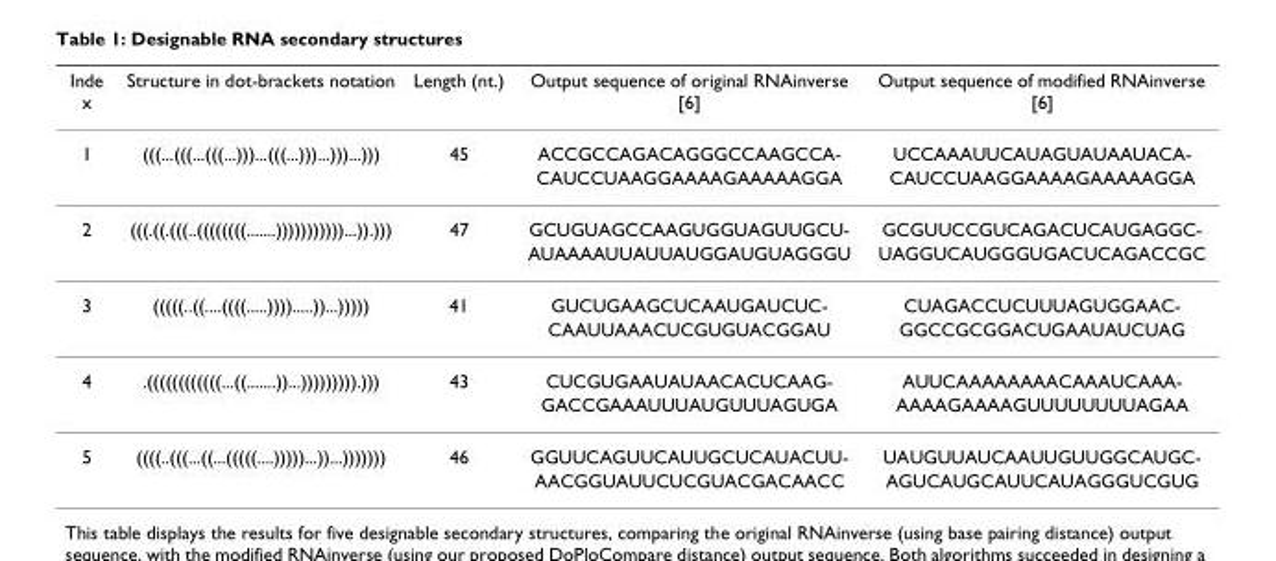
<table><thead><tr><td>Inde x</td><td>Structure in dot-brackets notation</td><td>Length (nt.)</td><td>Output sequence of original RNAinverse [6]</td><td>Output sequence of modified RNAinverse [6]</td></tr></thead><tbody><tr><td rowspan="2">1</td><td>(((...(((...(((...)))...(((...)))...)))...)))</td><td>45</td><td>ACCGCCAGACAGGGCCAAGCCA-</td><td>UCCAAAUUCAUAGUAUAAUACA-</td></tr><tr><td></td><td></td><td>CAUCCUAAGGAAAAGAAAAAGGA</td><td>CAUCCUAAGGAAAAGAAAAAGGA</td></tr><tr><td rowspan="2">2</td><td>(((.((.(((..((((((((.......)))))))))))...)).)))</td><td>47</td><td>GCUGUAGCCAAGUGGUAGUUGCU-</td><td>GCGUUCCGUCAGACUCAUGAGGC-</td></tr><tr><td></td><td></td><td>AUAAAAUUAUUAUGGAUGUAGGGU</td><td>UAGGUCAUGGGUGACUCAGACCGC</td></tr><tr><td rowspan="2">3</td><td>(((((..((....((((.....)))).....))...)))))</td><td>41</td><td>GUCUGAAGCUCAAUGAUCUC-</td><td>CUAGACCUCUUUAGUGGAAC-</td></tr><tr><td></td><td></td><td>CAAUUAAACUCGUGUACGGAU</td><td>GGCCGCGGACUGAAUAUCUAG</td></tr><tr><td rowspan="2">4</td><td>.((((((((((((...((.......))...))))))))).)))</td><td>43</td><td>CUCGUGAAUAUAACACUCAAG-</td><td>AUUCAAAAAAAACAAAUCAAA-</td></tr><tr><td></td><td></td><td>GACCGAAAUUUAUGUUUAGUGA</td><td>AAAAGAAAAGUUUUUUUUAGAA</td></tr><tr><td rowspan="2">5</td><td>((((..(((...((...(((((....)))))...))...)))))))</td><td>46</td><td>GGUUCAGUUCAUUGCUCAUACUU-</td><td>UAUGUUAUCAAUUGUUGGCAUGC-</td></tr><tr><td></td><td></td><td>AACGGUAUUCUCGUACGACAACC</td><td>AGUCAUGCAUUCAUAGGGUCGUG</td></tr></tbody></table>